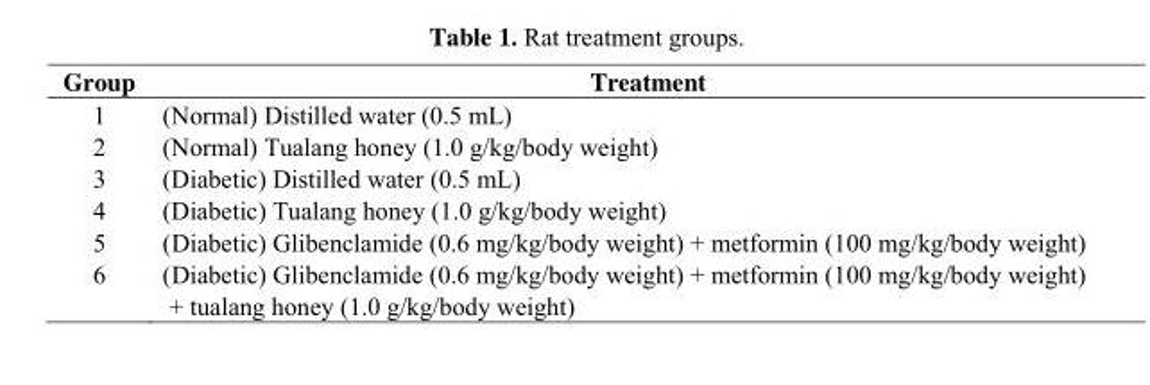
<table><thead><tr><td>Group</td><td>Treatment</td></tr></thead><tbody><tr><td>1</td><td>(Normal) Distilled water (0.5 mL)</td></tr><tr><td>2</td><td>(Normal) Tualang honey (1.0 g/kg/body weight)</td></tr><tr><td>3</td><td>(Diabetic) Distilled water (0.5 mL)</td></tr><tr><td>4</td><td>(Diabetic) Tualang honey (1.0 g/kg/body weight)</td></tr><tr><td>5</td><td>(Diabetic) Glibenclamide (0.6 mg/kg/body weight) + metformin (100 mg/kg/body weight)</td></tr><tr><td>6</td><td>(Diabetic) Glibenclamide (0.6 mg/kg/body weight) + metformin (100 mg/kg/body weight) + tualang honey (1.0 g/kg/body weight)</td></tr></tbody></table>